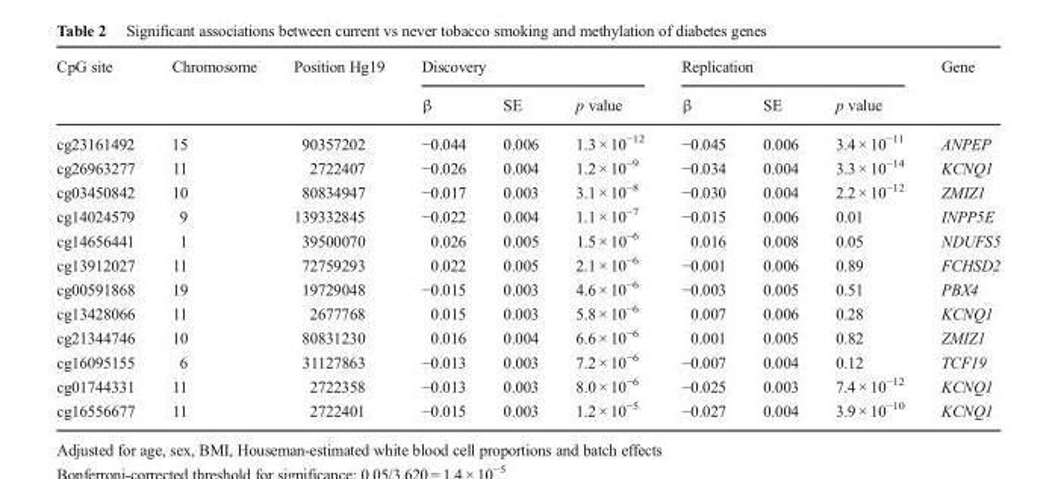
<table><thead><tr><td rowspan="2">CpG site</td><td rowspan="2">Chromosome</td><td rowspan="2">Position Hg19</td><td colspan="3">Discovery</td><td colspan="3">Replication</td><td rowspan="2">Gene</td></tr><tr><td>β</td><td>SE</td><td>p value</td><td>β</td><td>SE</td><td>p value</td></tr></thead><tbody><tr><td>cg23161492</td><td>15</td><td>90357202</td><td>−0.044</td><td>0.006</td><td>1.3 × 10<sup>−12</sup></td><td>−0.045</td><td>0.006</td><td>3.4 × 10<sup>−11</sup></td><td>ANPEP</td></tr><tr><td>cg26963277</td><td>11</td><td>2722407</td><td>−0.026</td><td>0.004</td><td>1.2 × 10<sup>−9</sup></td><td>−0.034</td><td>0.004</td><td>3.3 × 10<sup>−14</sup></td><td>KCNQ1</td></tr><tr><td>cg03450842</td><td>10</td><td>80834947</td><td>−0.017</td><td>0.003</td><td>3.1 × 10<sup>−8</sup></td><td>−0.030</td><td>0.004</td><td>2.2 × 10<sup>−12</sup></td><td>ZMIZ1</td></tr><tr><td>cg14024579</td><td>9</td><td>139332845</td><td>−0.022</td><td>0.004</td><td>1.1 × 10<sup>−7</sup></td><td>−0.015</td><td>0.006</td><td>0.01</td><td>INPP5E</td></tr><tr><td>cg14656441</td><td>1</td><td>39500070</td><td>0.026</td><td>0.005</td><td>1.5 × 10<sup>−6</sup></td><td>0.016</td><td>0.008</td><td>0.05</td><td>NDUFS5</td></tr><tr><td>cg13912027</td><td>11</td><td>72759293</td><td>0.022</td><td>0.005</td><td>2.1 × 10<sup>−6</sup></td><td>−0.001</td><td>0.006</td><td>0.89</td><td>FCHSD2</td></tr><tr><td>cg00591868</td><td>19</td><td>19729048</td><td>−0.015</td><td>0.003</td><td>4.6 × 10<sup>−6</sup></td><td>−0.003</td><td>0.005</td><td>0.51</td><td>PBX4</td></tr><tr><td>cg13428066</td><td>11</td><td>2677768</td><td>0.015</td><td>0.003</td><td>5.8 × 10<sup>−6</sup></td><td>0.007</td><td>0.006</td><td>0.28</td><td>KCNQ1</td></tr><tr><td>cg21344746</td><td>10</td><td>80831230</td><td>0.016</td><td>0.004</td><td>6.6 × 10<sup>−6</sup></td><td>0.001</td><td>0.005</td><td>0.82</td><td>ZMIZ1</td></tr><tr><td>cg16095155</td><td>6</td><td>31127863</td><td>−0.013</td><td>0.003</td><td>7.2 × 10<sup>−6</sup></td><td>−0.007</td><td>0.004</td><td>0.12</td><td>TCF19</td></tr><tr><td>cg01744331</td><td>11</td><td>2722358</td><td>−0.013</td><td>0.003</td><td>8.0 × 10<sup>−6</sup></td><td>−0.025</td><td>0.003</td><td>7.4 × 10<sup>−12</sup></td><td>KCNQ1</td></tr><tr><td>cg16556677</td><td>11</td><td>2722401</td><td>−0.015</td><td>0.003</td><td>1.2 × 10<sup>−5</sup></td><td>−0.027</td><td>0.004</td><td>3.9 × 10<sup>−10</sup></td><td>KCNQ1</td></tr></tbody></table>